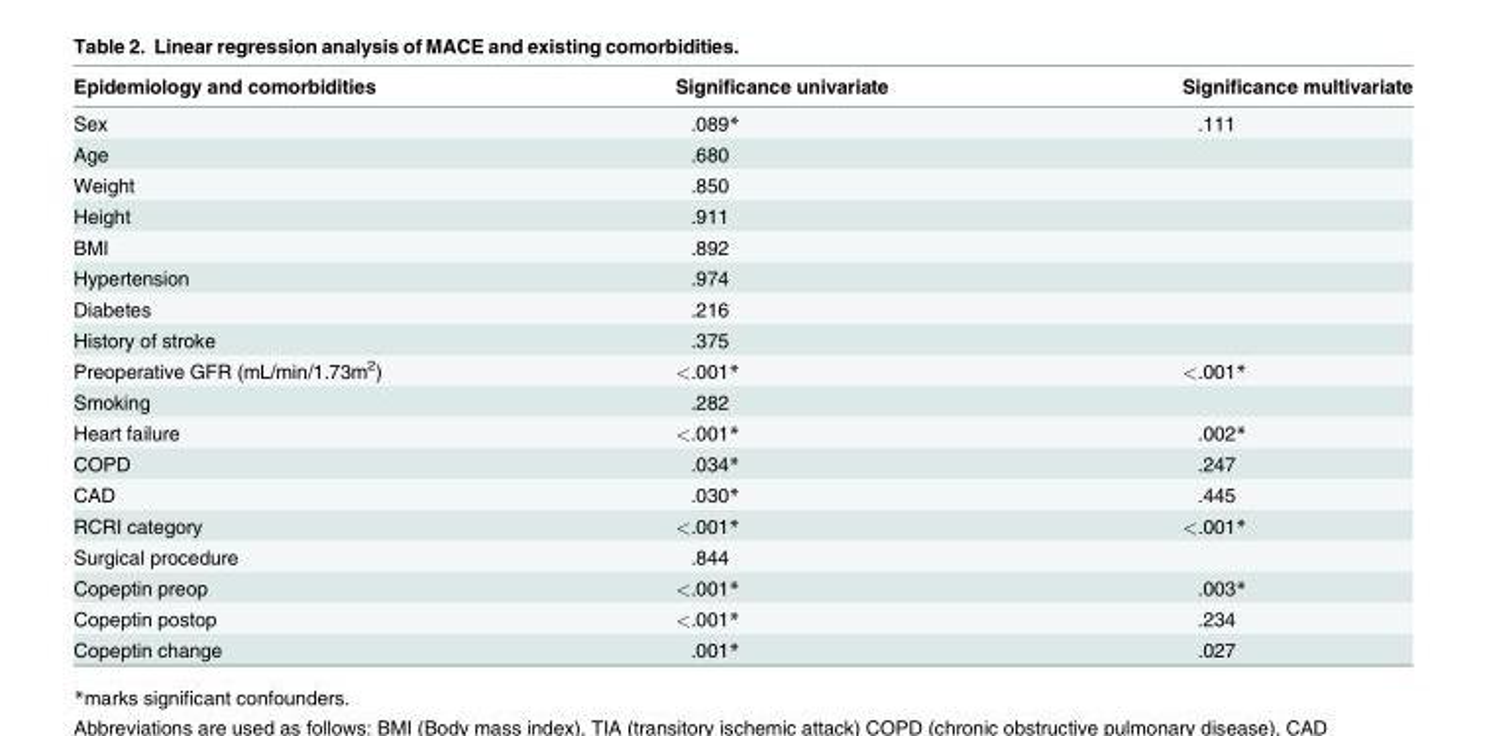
<table><thead><tr><td>Epidemiology and comorbidities</td><td>Significance univariate</td><td>Significance multivariate</td></tr></thead><tbody><tr><td>Sex</td><td>.089*</td><td>.111</td></tr><tr><td>Age</td><td>.680</td><td></td></tr><tr><td>Weight</td><td>.850</td><td></td></tr><tr><td>Height</td><td>.911</td><td></td></tr><tr><td>BMI</td><td>.892</td><td></td></tr><tr><td>Hypertension</td><td>.974</td><td></td></tr><tr><td>Diabetes</td><td>.216</td><td></td></tr><tr><td>History of stroke</td><td>.375</td><td></td></tr><tr><td>Preoperative GFR (mL/min/1.73m<sup>2</sup>)</td><td>&lt;.001*</td><td>&lt;.001*</td></tr><tr><td>Smoking</td><td>.282</td><td></td></tr><tr><td>Heart failure</td><td>&lt;.001*</td><td>.002*</td></tr><tr><td>COPD</td><td>.034*</td><td>.247</td></tr><tr><td>CAD</td><td>.030*</td><td>.445</td></tr><tr><td>RCRI category</td><td>&lt;.001*</td><td>&lt;.001*</td></tr><tr><td>Surgical procedure</td><td>.844</td><td></td></tr><tr><td>Copeptin preop</td><td>&lt;.001*</td><td>.003*</td></tr><tr><td>Copeptin postop</td><td>&lt;.001*</td><td>.234</td></tr><tr><td>Copeptin change</td><td>.001*</td><td>.027</td></tr></tbody></table>